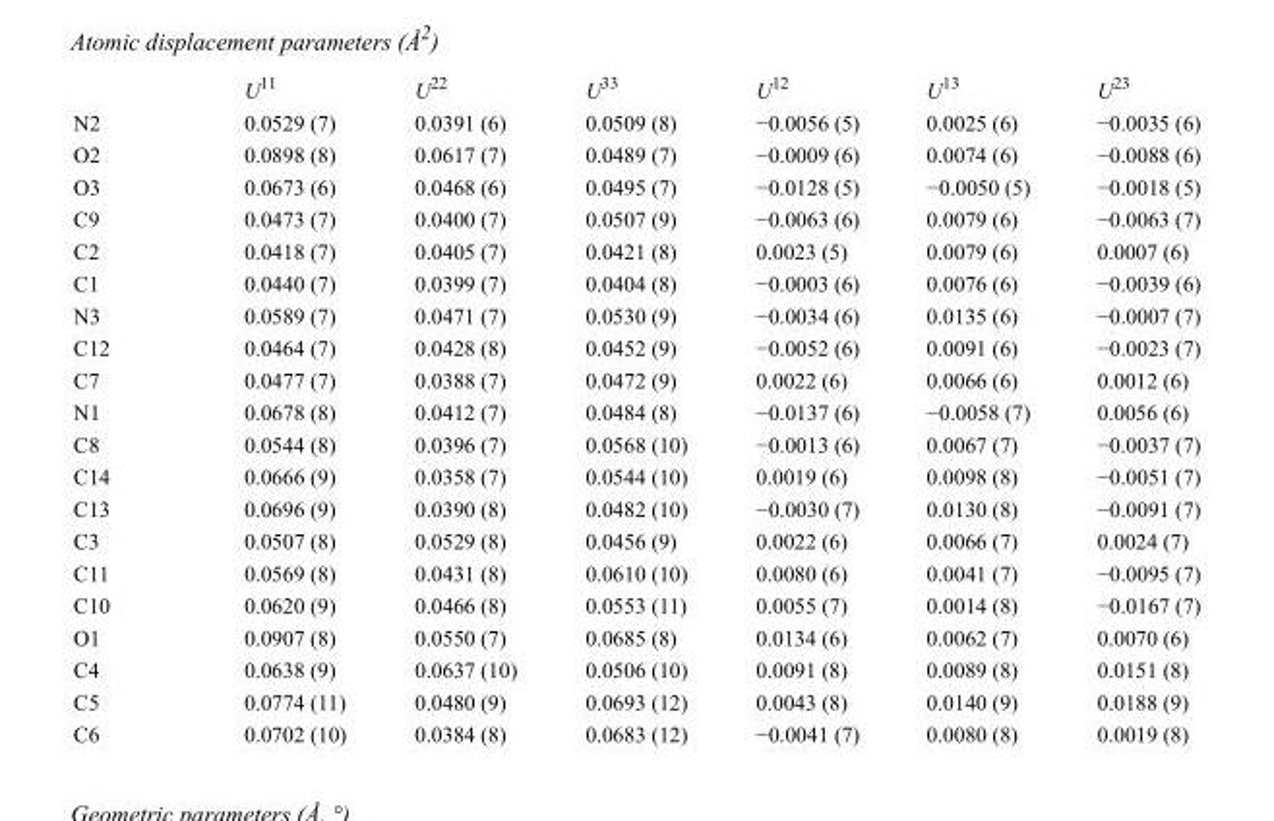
<table><thead><tr><td></td><td>U<sup>11</sup></td><td>U<sup>22</sup></td><td>U<sup>33</sup></td><td>U<sup>12</sup></td><td>U<sup>13</sup></td><td>U<sup>23</sup></td></tr></thead><tbody><tr><td>N2</td><td>0.0529 (7)</td><td>0.0391 (6)</td><td>0.0509 (8)</td><td>−0.0056 (5)</td><td>0.0025 (6)</td><td>−0.0035 (6)</td></tr><tr><td>O2</td><td>0.0898 (8)</td><td>0.0617 (7)</td><td>0.0489 (7)</td><td>−0.0009 (6)</td><td>0.0074 (6)</td><td>−0.0088 (6)</td></tr><tr><td>O3</td><td>0.0673 (6)</td><td>0.0468 (6)</td><td>0.0495 (7)</td><td>−0.0128 (5)</td><td>−0.0050 (5)</td><td>−0.0018 (5)</td></tr><tr><td>C9</td><td>0.0473 (7)</td><td>0.0400 (7)</td><td>0.0507 (9)</td><td>−0.0063 (6)</td><td>0.0079 (6)</td><td>−0.0063 (7)</td></tr><tr><td>C2</td><td>0.0418 (7)</td><td>0.0405 (7)</td><td>0.0421 (8)</td><td>0.0023 (5)</td><td>0.0079 (6)</td><td>0.0007 (6)</td></tr><tr><td>C1</td><td>0.0440 (7)</td><td>0.0399 (7)</td><td>0.0404 (8)</td><td>−0.0003 (6)</td><td>0.0076 (6)</td><td>−0.0039 (6)</td></tr><tr><td>N3</td><td>0.0589 (7)</td><td>0.0471 (7)</td><td>0.0530 (9)</td><td>−0.0034 (6)</td><td>0.0135 (6)</td><td>−0.0007 (7)</td></tr><tr><td>C12</td><td>0.0464 (7)</td><td>0.0428 (8)</td><td>0.0452 (9)</td><td>−0.0052 (6)</td><td>0.0091 (6)</td><td>−0.0023 (7)</td></tr><tr><td>C7</td><td>0.0477 (7)</td><td>0.0388 (7)</td><td>0.0472 (9)</td><td>0.0022 (6)</td><td>0.0066 (6)</td><td>0.0012 (6)</td></tr><tr><td>N1</td><td>0.0678 (8)</td><td>0.0412 (7)</td><td>0.0484 (8)</td><td>−0.0137 (6)</td><td>−0.0058 (7)</td><td>0.0056 (6)</td></tr><tr><td>C8</td><td>0.0544 (8)</td><td>0.0396 (7)</td><td>0.0568 (10)</td><td>−0.0013 (6)</td><td>0.0067 (7)</td><td>−0.0037 (7)</td></tr><tr><td>C14</td><td>0.0666 (9)</td><td>0.0358 (7)</td><td>0.0544 (10)</td><td>0.0019 (6)</td><td>0.0098 (8)</td><td>−0.0051 (7)</td></tr><tr><td>C13</td><td>0.0696 (9)</td><td>0.0390 (8)</td><td>0.0482 (10)</td><td>−0.0030 (7)</td><td>0.0130 (8)</td><td>−0.0091 (7)</td></tr><tr><td>C3</td><td>0.0507 (8)</td><td>0.0529 (8)</td><td>0.0456 (9)</td><td>0.0022 (6)</td><td>0.0066 (7)</td><td>0.0024 (7)</td></tr><tr><td>C11</td><td>0.0569 (8)</td><td>0.0431 (8)</td><td>0.0610 (10)</td><td>0.0080 (6)</td><td>0.0041 (7)</td><td>−0.0095 (7)</td></tr><tr><td>C10</td><td>0.0620 (9)</td><td>0.0466 (8)</td><td>0.0553 (11)</td><td>0.0055 (7)</td><td>0.0014 (8)</td><td>−0.0167 (7)</td></tr><tr><td>O1</td><td>0.0907 (8)</td><td>0.0550 (7)</td><td>0.0685 (8)</td><td>0.0134 (6)</td><td>0.0062 (7)</td><td>0.0070 (6)</td></tr><tr><td>C4</td><td>0.0638 (9)</td><td>0.0637 (10)</td><td>0.0506 (10)</td><td>0.0091 (8)</td><td>0.0089 (8)</td><td>0.0151 (8)</td></tr><tr><td>C5</td><td>0.0774 (11)</td><td>0.0480 (9)</td><td>0.0693 (12)</td><td>0.0043 (8)</td><td>0.0140 (9)</td><td>0.0188 (9)</td></tr><tr><td>C6</td><td>0.0702 (10)</td><td>0.0384 (8)</td><td>0.0683 (12)</td><td>−0.0041 (7)</td><td>0.0080 (8)</td><td>0.0019 (8)</td></tr></tbody></table>